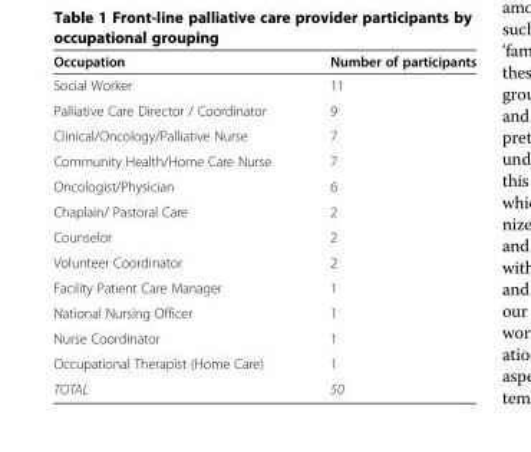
<table><thead><tr><td>Occupation</td><td>Number of participants</td></tr></thead><tbody><tr><td>Social Worker</td><td>11</td></tr><tr><td>Palliative Care Director / Coordinator</td><td>9</td></tr><tr><td>Clinical/Oncology/Palliative Nurse</td><td>7</td></tr><tr><td>Community Health/Home Care Nurse</td><td>7</td></tr><tr><td>Oncologist/Physician</td><td>6</td></tr><tr><td>Chaplain/ Pastoral Care</td><td>2</td></tr><tr><td>Counselor</td><td>2</td></tr><tr><td>Volunteer Coordinator</td><td>2</td></tr><tr><td>Facility Patient Care Manager</td><td>1</td></tr><tr><td>National Nursing Officer</td><td>1</td></tr><tr><td>Nurse Coordinator</td><td>1</td></tr><tr><td>Occupational Therapist (Home Care)</td><td>1</td></tr><tr><td>TOTAL</td><td>50</td></tr></tbody></table>